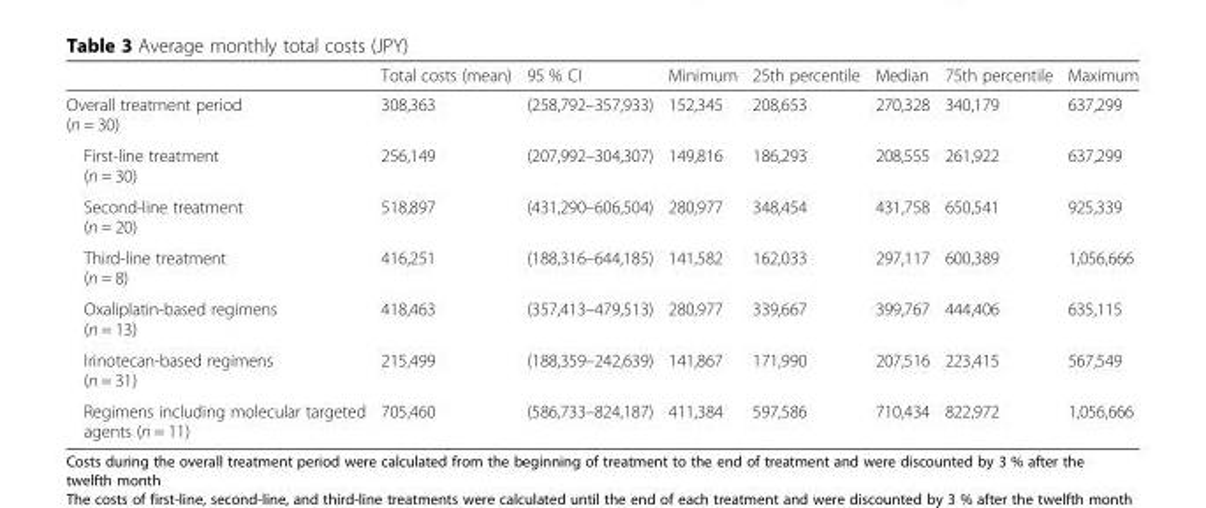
<table><thead><tr><td></td><td>Total costs (mean)</td><td>95 % CI</td><td>Minimum</td><td>25th percentile</td><td>Median</td><td>75th percentile</td><td>Maximum</td></tr></thead><tbody><tr><td>Overall treatment period (n = 30)</td><td>308,363</td><td>(258,792–357,933)</td><td>152,345</td><td>208,653</td><td>270,328</td><td>340,179</td><td>637,299</td></tr><tr><td>First-line treatment (n = 30)</td><td>256,149</td><td>(207,992–304,307)</td><td>149,816</td><td>186,293</td><td>208,555</td><td>261,922</td><td>637,299</td></tr><tr><td>Second-line treatment (n = 20)</td><td>518,897</td><td>(431,290–606,504)</td><td>280,977</td><td>348,454</td><td>431,758</td><td>650,541</td><td>925,339</td></tr><tr><td>Third-line treatment (n = 8)</td><td>416,251</td><td>(188,316–644,185)</td><td>141,582</td><td>162,033</td><td>297,117</td><td>600,389</td><td>1,056,666</td></tr><tr><td>Oxaliplatin-based regimens (n = 13)</td><td>418,463</td><td>(357,413–479,513)</td><td>280,977</td><td>339,667</td><td>399,767</td><td>444,406</td><td>635,115</td></tr><tr><td>Irinotecan-based regimens (n = 31)</td><td>215,499</td><td>(188,359–242,639)</td><td>141,867</td><td>171,990</td><td>207,516</td><td>223,415</td><td>567,549</td></tr><tr><td>Regimens including molecular targeted agents (n = 11)</td><td>705,460</td><td>(586,733–824,187)</td><td>411,384</td><td>597,586</td><td>710,434</td><td>822,972</td><td>1,056,666</td></tr></tbody></table>